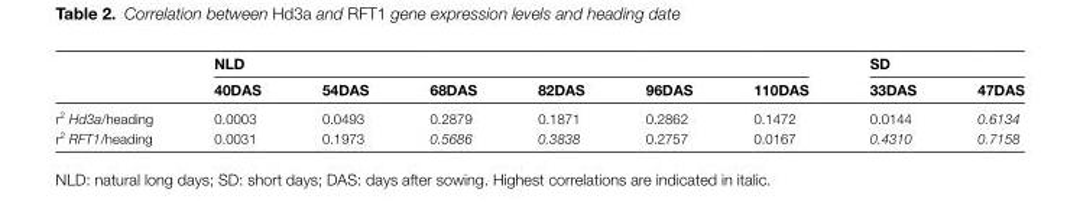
<table><thead><tr><td rowspan="2"></td><td colspan="6">NLD</td><td colspan="2">SD</td></tr><tr><td>40DAS</td><td>54DAS</td><td>68DAS</td><td>82DAS</td><td>96DAS</td><td>110DAS</td><td>33DAS</td><td>47DAS</td></tr></thead><tbody><tr><td>r<sup>2</sup> Hd3a/heading</td><td>0.0003</td><td>0.0493</td><td>0.2879</td><td>0.1871</td><td>0.2862</td><td>0.1472</td><td>0.0144</td><td>0.6134</td></tr><tr><td>r<sup>2</sup> RFT1/heading</td><td>0.0031</td><td>0.1973</td><td>0.5686</td><td>0.3838</td><td>0.2757</td><td>0.0167</td><td>0.4310</td><td>0.7158</td></tr></tbody></table>